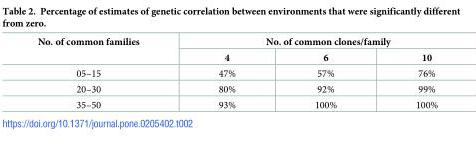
<table><thead><tr><td rowspan="2">No. of common families</td><td colspan="3">No. of common clones/family</td></tr><tr><td>4</td><td>6</td><td>10</td></tr></thead><tbody><tr><td>05–15</td><td>47%</td><td>57%</td><td>76%</td></tr><tr><td>20–30</td><td>80%</td><td>92%</td><td>99%</td></tr><tr><td>35–50</td><td>93%</td><td>100%</td><td>100%</td></tr></tbody></table>